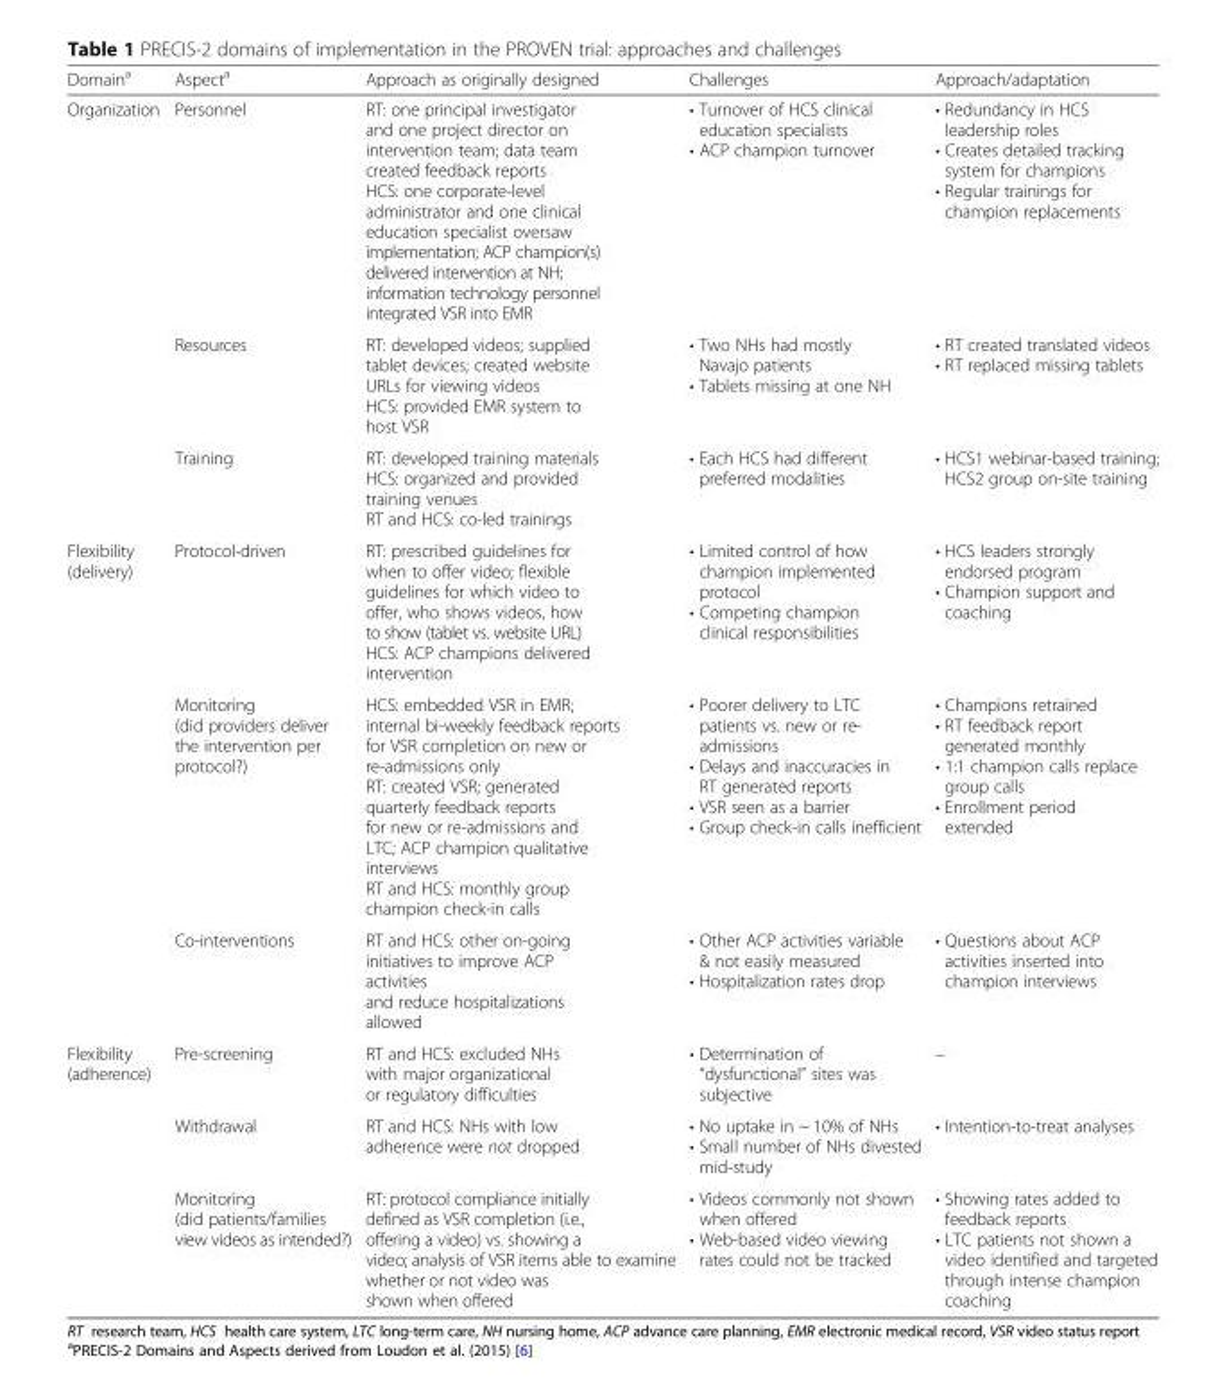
<table><thead><tr><td>Domain<sup>a</sup></td><td>Aspect<sup>a</sup></td><td>Approach as originally designed</td><td>Challenges</td><td>Approach/adaptation</td></tr></thead><tbody><tr><td rowspan="3">Organization</td><td>Personnel</td><td>RT: one principal investigator and one project director on intervention team; data team created feedback reports HCS: one corporate-level administrator and one clinical education specialist oversaw implementation; ACP champion(s) delivered intervention at NH; information technology personnel integrated VSR into EMR</td><td>• Turnover of HCS clinical education specialists • ACP champion turnover</td><td>• Redundancy in HCS leadership roles • Creates detailed tracking system for champions • Regular trainings for champion replacements</td></tr><tr><td>Resources</td><td>RT: developed videos; supplied tablet devices; created website URLs for viewing videos HCS: provided EMR system to host VSR</td><td>• Two NHs had mostly Navajo patients • Tablets missing at one NH</td><td>• RT created translated videos • RT replaced missing tablets</td></tr><tr><td>Training</td><td>RT: developed training materials HCS: organized and provided training venues RT and HCS: co-led trainings</td><td>• Each HCS had different preferred modalities</td><td>• HCS1 webinar-based training; HCS2 group on-site training</td></tr><tr><td rowspan="3">Flexibility (delivery)</td><td>Protocol-driven</td><td>RT: prescribed guidelines for when to offer video; flexible guidelines for which video to offer, who shows videos, how to show (tablet vs. website URL) HCS: ACP champions delivered intervention</td><td>• Limited control of how champion implemented protocol • Competing champion clinical responsibilities</td><td>• HCS leaders strongly endorsed program • Champion support and coaching</td></tr><tr><td>Monitoring (did providers deliver the intervention per protocol?)</td><td>HCS: embedded VSR in EMR; internal bi-weekly feedback reports for VSR completion on new or re-admissions only RT: created VSR; generated quarterly feedback reports for new or re-admissions and LTC; ACP champion qualitative interviews RT and HCS: monthly group champion check-in calls</td><td>• Poorer delivery to LTC patients vs. new or re- admissions • Delays and inaccuracies in RT generated reports • VSR seen as a barrier • Group check-in calls inefficient</td><td>• Champions retrained • RT feedback report generated monthly • 1:1 champion calls replace group calls • Enrollment period extended</td></tr><tr><td>Co-interventions</td><td>RT and HCS: other on-going initiatives to improve ACP activities and reduce hospitalizations allowed</td><td>• Other ACP activities variable &amp; not easily measured • Hospitalization rates drop</td><td>• Questions about ACP activities inserted into champion interviews</td></tr><tr><td rowspan="3">Flexibility (adherence)</td><td>Pre-screening</td><td>RT and HCS: excluded NHs with major organizational or regulatory difficulties</td><td>• Determination of “dysfunctional” sites was subjective</td><td>–</td></tr><tr><td>Withdrawal</td><td>RT and HCS: NHs with low adherence were not dropped</td><td>• No uptake in ~ 10% of NHs • Small number of NHs divested mid-study</td><td>• Intention-to-treat analyses</td></tr><tr><td>Monitoring (did patients/families view videos as intended?)</td><td>RT: protocol compliance initially defined as VSR completion (i.e., offering a video) vs. showing a video; analysis of VSR items able to examine whether or not video was shown when offered</td><td>• Videos commonly not shown when offered • Web-based video viewing rates could not be tracked</td><td>• Showing rates added to feedback reports • LTC patients not shown a video identified and targeted through intense champion coaching</td></tr></tbody></table>